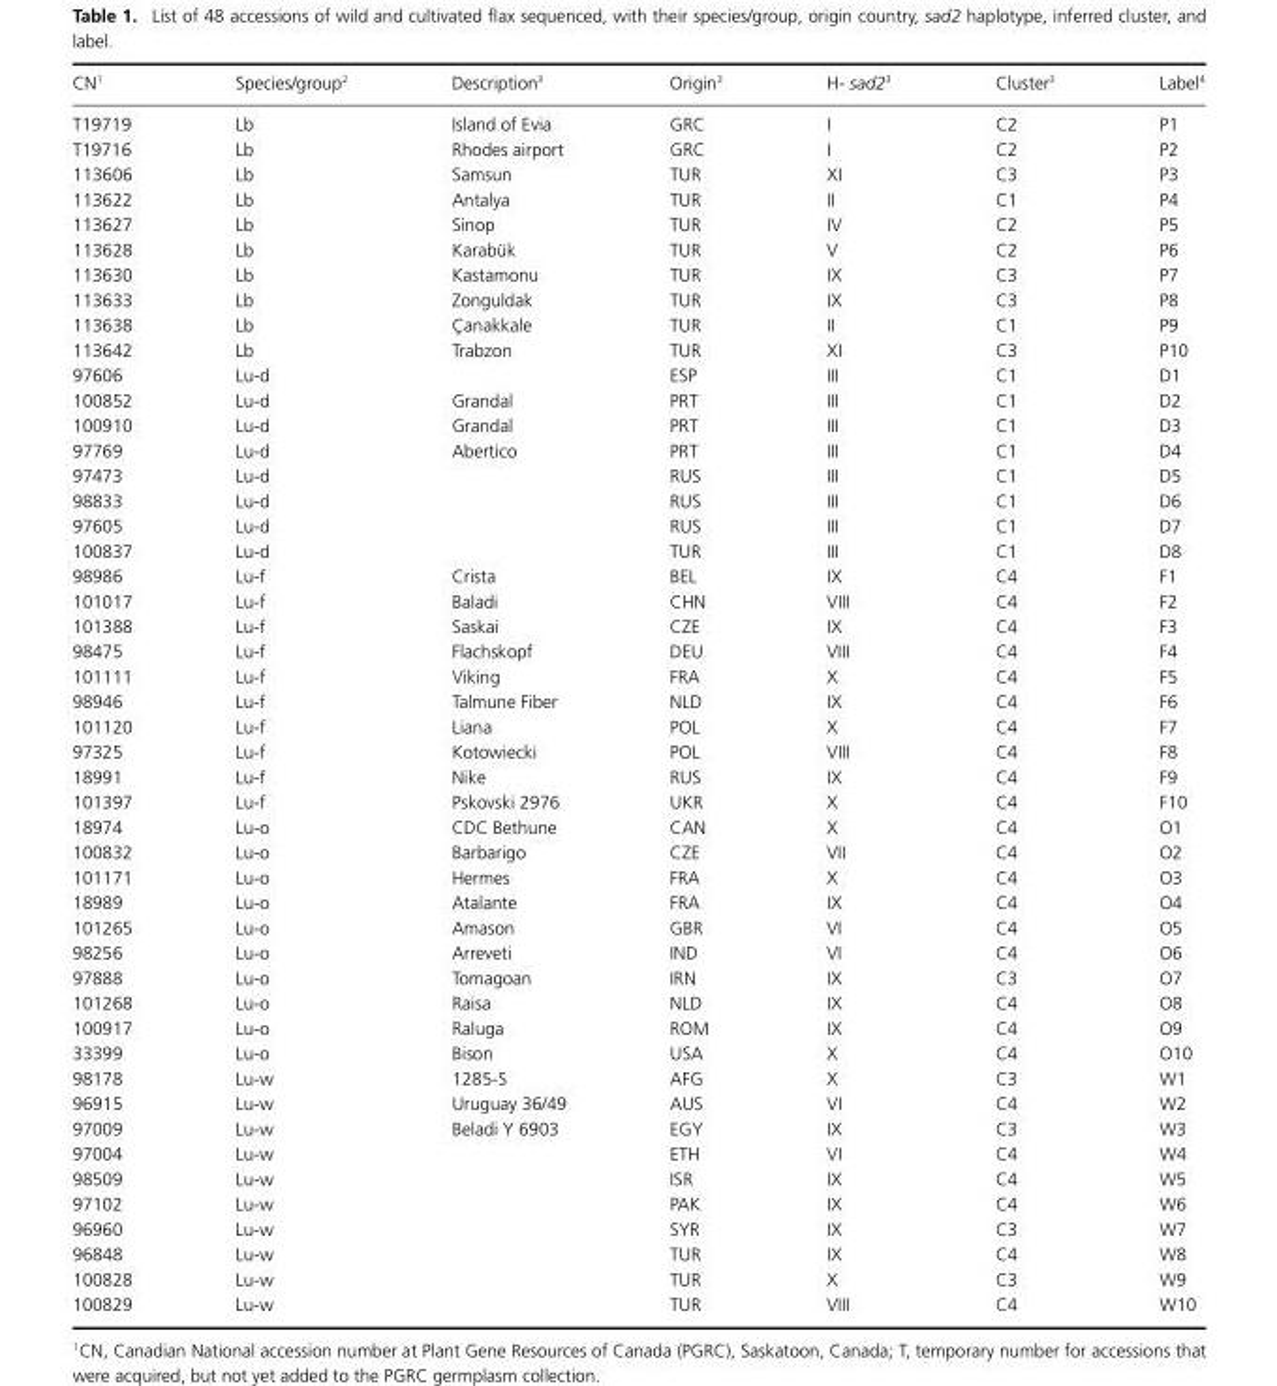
<table><thead><tr><td>CN<sup>1</sup></td><td>Species/group<sup>2</sup></td><td>Description<sup>3</sup></td><td>Origin<sup>3</sup></td><td>H- sad2<sup>3</sup></td><td>Cluster<sup>3</sup></td><td>Label<sup>4</sup></td></tr></thead><tbody><tr><td>T19719</td><td>Lb</td><td>Island of Evia</td><td>GRC</td><td>I</td><td>C2</td><td>P1</td></tr><tr><td>T19716</td><td>Lb</td><td>Rhodes airport</td><td>GRC</td><td>I</td><td>C2</td><td>P2</td></tr><tr><td>113606</td><td>Lb</td><td>Samsun</td><td>TUR</td><td>XI</td><td>C3</td><td>P3</td></tr><tr><td>113622</td><td>Lb</td><td>Antalya</td><td>TUR</td><td>II</td><td>C1</td><td>P4</td></tr><tr><td>113627</td><td>Lb</td><td>Sinop</td><td>TUR</td><td>IV</td><td>C2</td><td>P5</td></tr><tr><td>113628</td><td>Lb</td><td>Karab ¨uk</td><td>TUR</td><td>V</td><td>C2</td><td>P6</td></tr><tr><td>113630</td><td>Lb</td><td>Kastamonu</td><td>TUR</td><td>IX</td><td>C3</td><td>P7</td></tr><tr><td>113633</td><td>Lb</td><td>Zonguldak</td><td>TUR</td><td>IX</td><td>C3</td><td>P8</td></tr><tr><td>113638</td><td>Lb</td><td>C¸ anakkale</td><td>TUR</td><td>II</td><td>C1</td><td>P9</td></tr><tr><td>113642</td><td>Lb</td><td>Trabzon</td><td>TUR</td><td>XI</td><td>C3</td><td>P10</td></tr><tr><td>97606</td><td>Lu-d</td><td></td><td>ESP</td><td>III</td><td>C1</td><td>D1</td></tr><tr><td>100852</td><td>Lu-d</td><td>Grandal</td><td>PRT</td><td>III</td><td>C1</td><td>D2</td></tr><tr><td>100910</td><td>Lu-d</td><td>Grandal</td><td>PRT</td><td>III</td><td>C1</td><td>D3</td></tr><tr><td>97769</td><td>Lu-d</td><td>Abertico</td><td>PRT</td><td>III</td><td>C1</td><td>D4</td></tr><tr><td>97473</td><td>Lu-d</td><td></td><td>RUS</td><td>III</td><td>C1</td><td>D5</td></tr><tr><td>98833</td><td>Lu-d</td><td></td><td>RUS</td><td>III</td><td>C1</td><td>D6</td></tr><tr><td>97605</td><td>Lu-d</td><td></td><td>RUS</td><td>III</td><td>C1</td><td>D7</td></tr><tr><td>100837</td><td>Lu-d</td><td></td><td>TUR</td><td>III</td><td>C1</td><td>D8</td></tr><tr><td>98986</td><td>Lu-f</td><td>Crista</td><td>BEL</td><td>IX</td><td>C4</td><td>F1</td></tr><tr><td>101017</td><td>Lu-f</td><td>Baladi</td><td>CHN</td><td>VIII</td><td>C4</td><td>F2</td></tr><tr><td>101388</td><td>Lu-f</td><td>Saskai</td><td>CZE</td><td>IX</td><td>C4</td><td>F3</td></tr><tr><td>98475</td><td>Lu-f</td><td>Flachskopf</td><td>DEU</td><td>VIII</td><td>C4</td><td>F4</td></tr><tr><td>101111</td><td>Lu-f</td><td>Viking</td><td>FRA</td><td>X</td><td>C4</td><td>F5</td></tr><tr><td>98946</td><td>Lu-f</td><td>Talmune Fiber</td><td>NLD</td><td>IX</td><td>C4</td><td>F6</td></tr><tr><td>101120</td><td>Lu-f</td><td>Liana</td><td>POL</td><td>X</td><td>C4</td><td>F7</td></tr><tr><td>97325</td><td>Lu-f</td><td>Kotowiecki</td><td>POL</td><td>VIII</td><td>C4</td><td>F8</td></tr><tr><td>18991</td><td>Lu-f</td><td>Nike</td><td>RUS</td><td>IX</td><td>C4</td><td>F9</td></tr><tr><td>101397</td><td>Lu-f</td><td>Pskovski 2976</td><td>UKR</td><td>X</td><td>C4</td><td>F10</td></tr><tr><td>18974</td><td>Lu-o</td><td>CDC Bethune</td><td>CAN</td><td>X</td><td>C4</td><td>O1</td></tr><tr><td>100832</td><td>Lu-o</td><td>Barbarigo</td><td>CZE</td><td>VII</td><td>C4</td><td>O2</td></tr><tr><td>101171</td><td>Lu-o</td><td>Hermes</td><td>FRA</td><td>X</td><td>C4</td><td>O3</td></tr><tr><td>18989</td><td>Lu-o</td><td>Atalante</td><td>FRA</td><td>IX</td><td>C4</td><td>O4</td></tr><tr><td>101265</td><td>Lu-o</td><td>Amason</td><td>GBR</td><td>VI</td><td>C4</td><td>O5</td></tr><tr><td>98256</td><td>Lu-o</td><td>Arreveti</td><td>IND</td><td>VI</td><td>C4</td><td>O6</td></tr><tr><td>97888</td><td>Lu-o</td><td>Tomagoan</td><td>IRN</td><td>IX</td><td>C3</td><td>O7</td></tr><tr><td>101268</td><td>Lu-o</td><td>Raisa</td><td>NLD</td><td>IX</td><td>C4</td><td>O8</td></tr><tr><td>100917</td><td>Lu-o</td><td>Raluga</td><td>ROM</td><td>IX</td><td>C4</td><td>O9</td></tr><tr><td>33399</td><td>Lu-o</td><td>Bison</td><td>USA</td><td>X</td><td>C4</td><td>O10</td></tr><tr><td>98178</td><td>Lu-w</td><td>1285-S</td><td>AFG</td><td>X</td><td>C3</td><td>W1</td></tr><tr><td>96915</td><td>Lu-w</td><td>Uruguay 36/49</td><td>AUS</td><td>VI</td><td>C4</td><td>W2</td></tr><tr><td>97009</td><td>Lu-w</td><td>Beladi Y 6903</td><td>EGY</td><td>IX</td><td>C3</td><td>W3</td></tr><tr><td>97004</td><td>Lu-w</td><td></td><td>ETH</td><td>VI</td><td>C4</td><td>W4</td></tr><tr><td>98509</td><td>Lu-w</td><td></td><td>ISR</td><td>IX</td><td>C4</td><td>W5</td></tr><tr><td>97102</td><td>Lu-w</td><td></td><td>PAK</td><td>IX</td><td>C4</td><td>W6</td></tr><tr><td>96960</td><td>Lu-w</td><td></td><td>SYR</td><td>IX</td><td>C3</td><td>W7</td></tr><tr><td>96848</td><td>Lu-w</td><td></td><td>TUR</td><td>IX</td><td>C4</td><td>W8</td></tr><tr><td>100828</td><td>Lu-w</td><td></td><td>TUR</td><td>X</td><td>C3</td><td>W9</td></tr><tr><td>100829</td><td>Lu-w</td><td></td><td>TUR</td><td>VIII</td><td>C4</td><td>W10</td></tr></tbody></table>